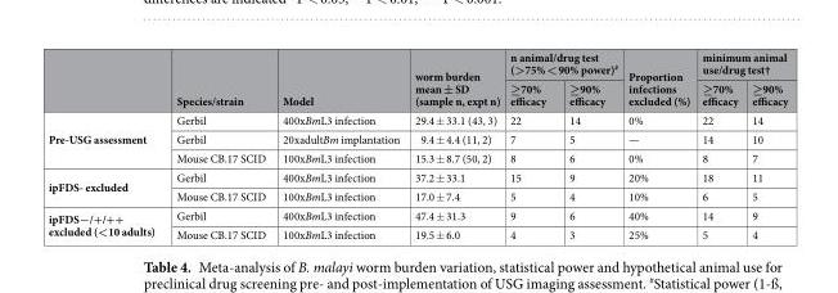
<table><thead><tr><td rowspan="2"></td><td rowspan="2">Species/strain</td><td rowspan="2">Model</td><td rowspan="2">worm burden mean ± SD (sample n, expt n)</td><td colspan="2">n animal/drug test (&gt;75% &lt; 90% power)<sup>#</sup></td><td rowspan="2">Proportion infections excluded (%)</td><td colspan="2">minimum animal use/drug test†</td></tr><tr><td>≥70% efficacy</td><td>≥90% efficacy</td><td>≥70% efficacy</td><td>≥90% efficacy</td></tr></thead><tbody><tr><td rowspan="3">Pre-USG assessment</td><td>Gerbil</td><td>400xBmL3 infection</td><td>29.4 ± 33.1 (43, 3)</td><td>22</td><td>14</td><td>0%</td><td>22</td><td>14</td></tr><tr><td>Gerbil</td><td>20xadultBm implantation</td><td>9.4 ± 4.4 (11, 2)</td><td>7</td><td>5</td><td>—</td><td>14</td><td>10</td></tr><tr><td>Mouse CB.17 SCID</td><td>100xBmL3 infection</td><td>15.3 ± 8.7 (50, 2)</td><td>8</td><td>6</td><td>0%</td><td>8</td><td>7</td></tr><tr><td rowspan="2">ipFDS- excluded</td><td>Gerbil</td><td>400xBmL3 infection</td><td>37.2 ± 33.1</td><td>15</td><td>9</td><td>20%</td><td>18</td><td>11</td></tr><tr><td>Mouse CB.17 SCID</td><td>100xBmL3 infection</td><td>17.0 ± 7.4</td><td>5</td><td>4</td><td>10%</td><td>6</td><td>5</td></tr><tr><td rowspan="2">ipFDS−/+/++ excluded (&lt;10 adults)</td><td>Gerbil</td><td>400xBmL3 infection</td><td>47.4 ± 31.3</td><td>9</td><td>6</td><td>40%</td><td>14</td><td>9</td></tr><tr><td>Mouse CB.17 SCID</td><td>100xBmL3 infection</td><td>19.5 ± 6.0</td><td>4</td><td>3</td><td>25%</td><td>5</td><td>4</td></tr></tbody></table>